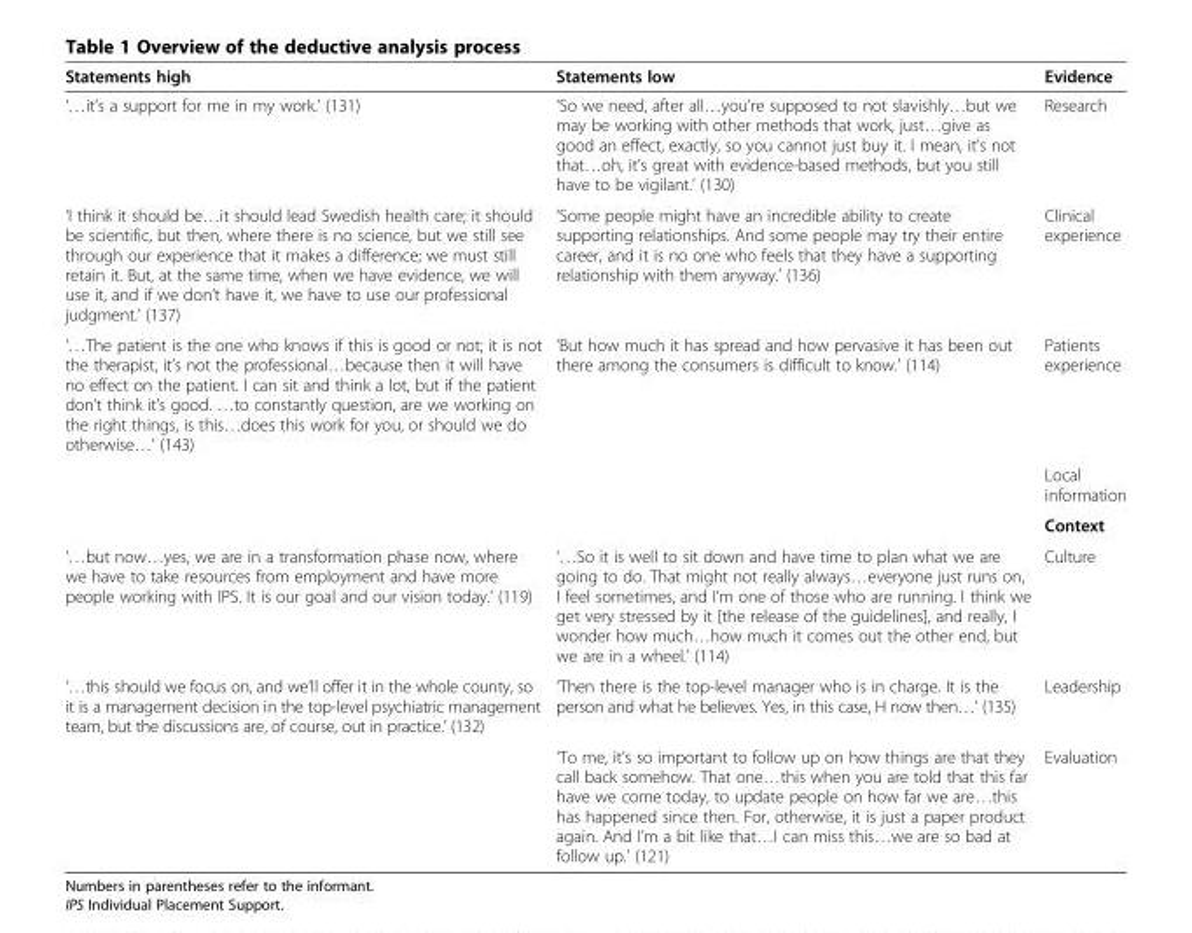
<table><thead><tr><td>Statements high</td><td>Statements low</td><td>Evidence</td></tr></thead><tbody><tr><td>‘…it’s a support for me in my work.’ (131)</td><td>‘So we need, after all…you’re supposed to not slavishly…but we may be working with other methods that work, just…give as good an effect, exactly, so you cannot just buy it. I mean, it’s not that…oh, it’s great with evidence-based methods, but you still have to be vigilant.’ (130)</td><td>Research</td></tr><tr><td>‘I think it should be…it should lead Swedish health care; it should be scientific, but then, where there is no science, but we still see through our experience that it makes a difference; we must still retain it. But, at the same time, when we have evidence, we will use it, and if we don’t have it, we have to use our professional judgment.’ (137)</td><td>‘Some people might have an incredible ability to create supporting relationships. And some people may try their entire career, and it is no one who feels that they have a supporting relationship with them anyway.’ (136)</td><td>Clinical experience</td></tr><tr><td rowspan="3">‘…The patient is the one who knows if this is good or not; it is not the therapist, it’s not the professional…because then it will have no effect on the patient. I can sit and think a lot, but if the patient don’t think it’s good. …to constantly question, are we working on the right things, is this…does this work for you, or should we do otherwise…’ (143)</td><td>‘But how much it has spread and how pervasive it has been out there among the consumers is difficult to know.’ (114)</td><td>Patients experience</td></tr><tr><td></td><td>Local information</td></tr><tr><td></td><td>Context</td></tr><tr><td>‘…but now…yes, we are in a transformation phase now, where we have to take resources from employment and have more people working with IPS. It is our goal and our vision today.’ (119)</td><td>‘…So it is well to sit down and have time to plan what we are going to do. That might not really always…everyone just runs on, I feel sometimes, and I’m one of those who are running. I think we get very stressed by it [the release of the guidelines], and really, I wonder how much…how much it comes out the other end, but we are in a wheel.’ (114)</td><td>Culture</td></tr><tr><td rowspan="2">‘…this should we focus on, and we‘ll offer it in the whole county, so it is a management decision in the top-level psychiatric management team, but the discussions are, of course, out in practice.’ (132)</td><td>‘Then there is the top-level manager who is in charge. It is the person and what he believes. Yes, in this case, H now then…’ (135)</td><td>Leadership</td></tr><tr><td>‘To me, it’s so important to follow up on how things are that they call back somehow. That one…this when you are told that this far have we come today, to update people on how far we are…this has happened since then. For, otherwise, it is just a paper product again. And I’m a bit like that…I can miss this…we are so bad at follow up.’ (121)</td><td>Evaluation</td></tr></tbody></table>